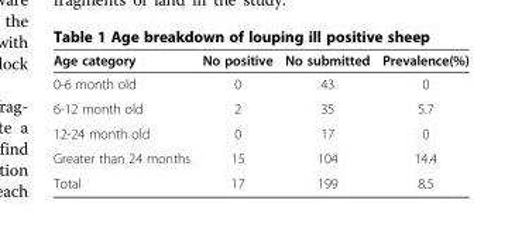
<table><thead><tr><td>Age category</td><td>No positive</td><td>No submitted</td><td>Prevalence(%)</td></tr></thead><tbody><tr><td>0-6 month old</td><td>0</td><td>43</td><td>0</td></tr><tr><td>6-12 month old</td><td>2</td><td>35</td><td>5.7</td></tr><tr><td>12-24 month old</td><td>0</td><td>17</td><td>0</td></tr><tr><td>Greater than 24 months</td><td>15</td><td>104</td><td>14.4</td></tr><tr><td>Total</td><td>17</td><td>199</td><td>8.5</td></tr></tbody></table>